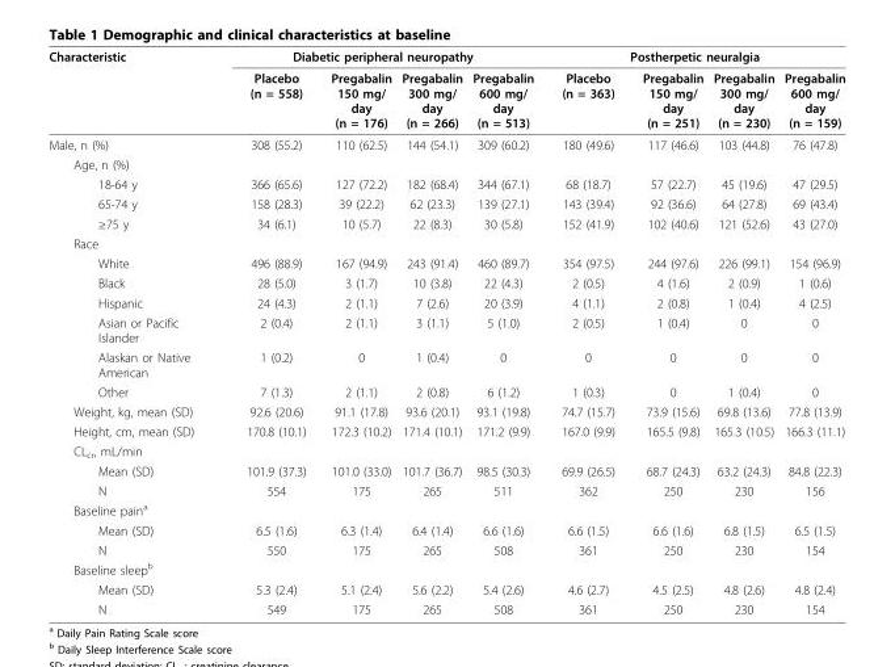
<table><thead><tr><td rowspan="2">Characteristic</td><td colspan="4">Diabetic peripheral neuropathy</td><td colspan="4">Postherpetic neuralgia</td></tr><tr><td>Placebo (n = 558)</td><td>Pregabalin 150 mg/ day (n = 176)</td><td>Pregabalin 300 mg/ day (n = 266)</td><td>Pregabalin 600 mg/ day (n = 513)</td><td>Placebo (n = 363)</td><td>Pregabalin 150 mg/ day (n = 251)</td><td>Pregabalin 300 mg/ day (n = 230)</td><td>Pregabalin 600 mg/ day (n = 159)</td></tr></thead><tbody><tr><td>Male, n (%)</td><td>308 (55.2)</td><td>110 (62.5)</td><td>144 (54.1)</td><td>309 (60.2)</td><td>180 (49.6)</td><td>117 (46.6)</td><td>103 (44.8)</td><td>76 (47.8)</td></tr><tr><td colspan="9">Age, n (%)</td></tr><tr><td>18-64 y</td><td>366 (65.6)</td><td>127 (72.2)</td><td>182 (68.4)</td><td>344 (67.1)</td><td>68 (18.7)</td><td>57 (22.7)</td><td>45 (19.6)</td><td>47 (29.5)</td></tr><tr><td>65-74 y</td><td>158 (28.3)</td><td>39 (22.2)</td><td>62 (23.3)</td><td>139 (27.1)</td><td>143 (39.4)</td><td>92 (36.6)</td><td>64 (27.8)</td><td>69 (43.4)</td></tr><tr><td>≥75 y</td><td>34 (6.1)</td><td>10 (5.7)</td><td>22 (8.3)</td><td>30 (5.8)</td><td>152 (41.9)</td><td>102 (40.6)</td><td>121 (52.6)</td><td>43 (27.0)</td></tr><tr><td colspan="9">Race</td></tr><tr><td>White</td><td>496 (88.9)</td><td>167 (94.9)</td><td>243 (91.4)</td><td>460 (89.7)</td><td>354 (97.5)</td><td>244 (97.6)</td><td>226 (99.1)</td><td>154 (96.9)</td></tr><tr><td>Black</td><td>28 (5.0)</td><td>3 (1.7)</td><td>10 (3.8)</td><td>22 (4.3)</td><td>2 (0.5)</td><td>4 (1.6)</td><td>2 (0.9)</td><td>1 (0.6)</td></tr><tr><td>Hispanic</td><td>24 (4.3)</td><td>2 (1.1)</td><td>7 (2.6)</td><td>20 (3.9)</td><td>4 (1.1)</td><td>2 (0.8)</td><td>1 (0.4)</td><td>4 (2.5)</td></tr><tr><td>Asian or Pacific Islander</td><td>2 (0.4)</td><td>2 (1.1)</td><td>3 (1.1)</td><td>5 (1.0)</td><td>2 (0.5)</td><td>1 (0.4)</td><td>0</td><td>0</td></tr><tr><td>Alaskan or Native American</td><td>1 (0.2)</td><td>0</td><td>1 (0.4)</td><td>0</td><td>0</td><td>0</td><td>0</td><td>0</td></tr><tr><td>Other</td><td>7 (1.3)</td><td>2 (1.1)</td><td>2 (0.8)</td><td>6 (1.2)</td><td>1 (0.3)</td><td>0</td><td>1 (0.4)</td><td>0</td></tr><tr><td>Weight, kg, mean (SD)</td><td>92.6 (20.6)</td><td>91.1 (17.8)</td><td>93.6 (20.1)</td><td>93.1 (19.8)</td><td>74.7 (15.7)</td><td>73.9 (15.6)</td><td>69.8 (13.6)</td><td>77.8 (13.9)</td></tr><tr><td>Height, cm, mean (SD)</td><td>170.8 (10.1)</td><td>172.3 (10.2)</td><td>171.4 (10.1)</td><td>171.2 (9.9)</td><td>167.0 (9.9)</td><td>165.5 (9.8)</td><td>165.3 (10.5)</td><td>166.3 (11.1)</td></tr><tr><td colspan="9">CL<sub>cr</sub>, mL/min</td></tr><tr><td>Mean (SD)</td><td>101.9 (37.3)</td><td>101.0 (33.0)</td><td>101.7 (36.7)</td><td>98.5 (30.3)</td><td>69.9 (26.5)</td><td>68.7 (24.3)</td><td>63.2 (24.3)</td><td>84.8 (22.3)</td></tr><tr><td>N</td><td>554</td><td>175</td><td>265</td><td>511</td><td>362</td><td>250</td><td>230</td><td>156</td></tr><tr><td colspan="9">Baseline pain<sup>a</sup></td></tr><tr><td>Mean (SD)</td><td>6.5 (1.6)</td><td>6.3 (1.4)</td><td>6.4 (1.4)</td><td>6.6 (1.6)</td><td>6.6 (1.5)</td><td>6.6 (1.6)</td><td>6.8 (1.5)</td><td>6.5 (1.5)</td></tr><tr><td>N</td><td>550</td><td>175</td><td>265</td><td>508</td><td>361</td><td>250</td><td>230</td><td>154</td></tr><tr><td colspan="9">Baseline sleep<sup>b</sup></td></tr><tr><td>Mean (SD)</td><td>5.3 (2.4)</td><td>5.1 (2.4)</td><td>5.6 (2.2)</td><td>5.4 (2.6)</td><td>4.6 (2.7)</td><td>4.5 (2.5)</td><td>4.8 (2.6)</td><td>4.8 (2.4)</td></tr><tr><td>N</td><td>549</td><td>175</td><td>265</td><td>508</td><td>361</td><td>250</td><td>230</td><td>154</td></tr></tbody></table>